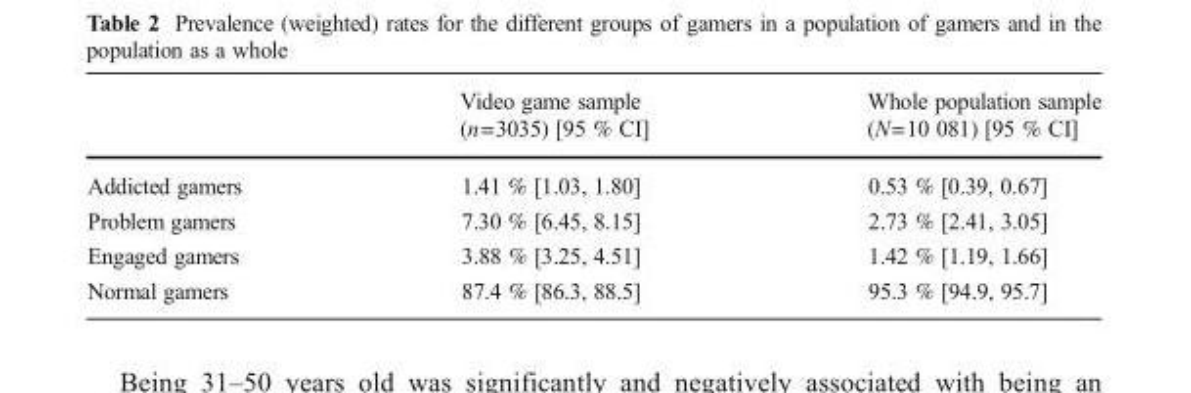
<table><thead><tr><td></td><td>Video game sample (n=3035) [95 % CI]</td><td>Whole population sample (N=10 081) [95 % CI]</td></tr></thead><tbody><tr><td>Addicted gamers</td><td>1.41 % [1.03, 1.80]</td><td>0.53 % [0.39, 0.67]</td></tr><tr><td>Problem gamers</td><td>7.30 % [6.45, 8.15]</td><td>2.73 % [2.41, 3.05]</td></tr><tr><td>Engaged gamers</td><td>3.88 % [3.25, 4.51]</td><td>1.42 % [1.19, 1.66]</td></tr><tr><td>Normal gamers</td><td>87.4 % [86.3, 88.5]</td><td>95.3 % [94.9, 95.7]</td></tr></tbody></table>